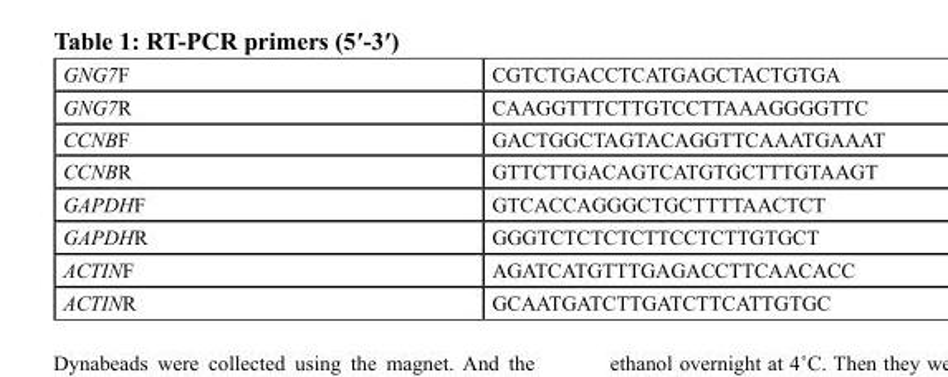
<table><tbody><tr><td>GNG7F</td><td>CGTCTGACCTCATGAGCTACTGTGA</td></tr><tr><td>GNG7R</td><td>CAAGGTTTCTTGTCCTTAAAGGGGTTC</td></tr><tr><td>CCNBF</td><td>GACTGGCTAGTACAGGTTCAAATGAAAT</td></tr><tr><td>CCNBR</td><td>GTTCTTGACAGTCATGTGCTTTGTAAGT</td></tr><tr><td>GAPDHF</td><td>GTCACCAGGGCTGCTTTTAACTCT</td></tr><tr><td>GAPDHR</td><td>GGGTCTCTCTCTTCCTCTTGTGCT</td></tr><tr><td>ACTINF</td><td>AGATCATGTTTGAGACCTTCAACACC</td></tr><tr><td>ACTINR</td><td>GCAATGATCTTGATCTTCATTGTGC</td></tr></tbody></table>